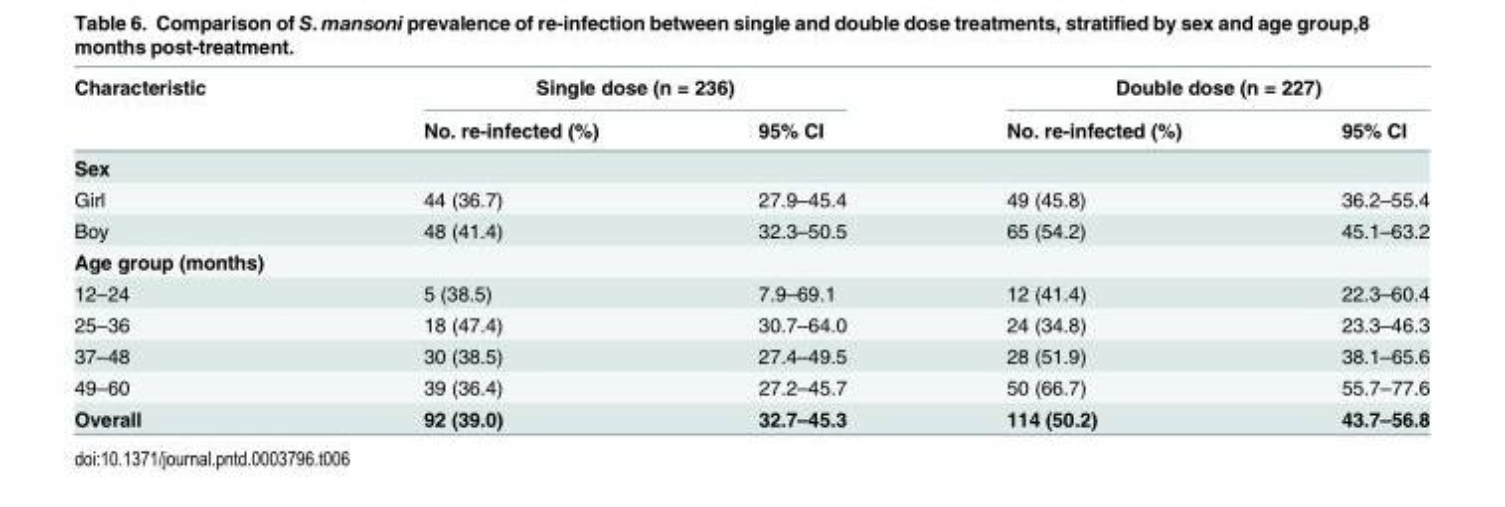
<table><thead><tr><td rowspan="2">Characteristic</td><td colspan="2">Single dose (n = 236)</td><td colspan="2">Double dose (n = 227)</td></tr><tr><td>No. re-infected (%)</td><td>95% CI</td><td>No. re-infected (%)</td><td>95% CI</td></tr></thead><tbody><tr><td colspan="5">Sex</td></tr><tr><td>Girl</td><td>44 (36.7)</td><td>27.9–45.4</td><td>49 (45.8)</td><td>36.2–55.4</td></tr><tr><td>Boy</td><td>48 (41.4)</td><td>32.3–50.5</td><td>65 (54.2)</td><td>45.1–63.2</td></tr><tr><td colspan="5">Age group (months)</td></tr><tr><td>12–24</td><td>5 (38.5)</td><td>7.9–69.1</td><td>12 (41.4)</td><td>22.3–60.4</td></tr><tr><td>25–36</td><td>18 (47.4)</td><td>30.7–64.0</td><td>24 (34.8)</td><td>23.3–46.3</td></tr><tr><td>37–48</td><td>30 (38.5)</td><td>27.4–49.5</td><td>28 (51.9)</td><td>38.1–65.6</td></tr><tr><td>49–60</td><td>39 (36.4)</td><td>27.2–45.7</td><td>50 (66.7)</td><td>55.7–77.6</td></tr><tr><td>Overall</td><td>92 (39.0)</td><td>32.7–45.3</td><td>114 (50.2)</td><td>43.7–56.8</td></tr></tbody></table>